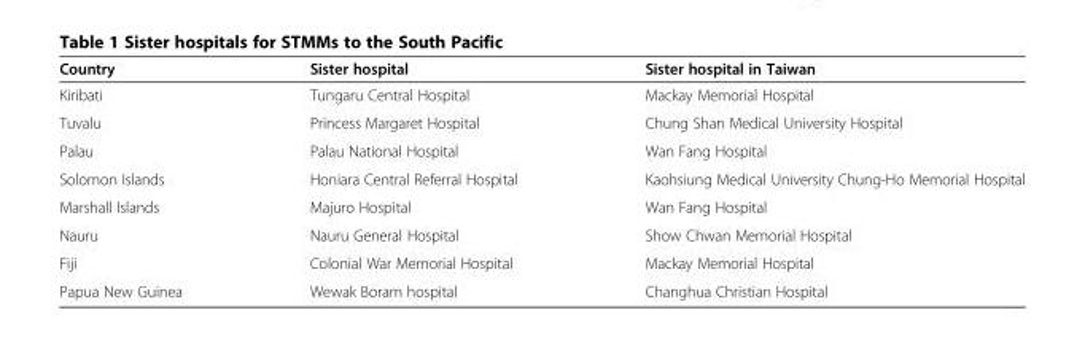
<table><thead><tr><td>Country</td><td>Sister hospital</td><td>Sister hospital in Taiwan</td></tr></thead><tbody><tr><td>Kiribati</td><td>Tungaru Central Hospital</td><td>Mackay Memorial Hospital</td></tr><tr><td>Tuvalu</td><td>Princess Margaret Hospital</td><td>Chung Shan Medical University Hospital</td></tr><tr><td>Palau</td><td>Palau National Hospital</td><td>Wan Fang Hospital</td></tr><tr><td>Solomon Islands</td><td>Honiara Central Referral Hospital</td><td>Kaohsiung Medical University Chung-Ho Memorial Hospital</td></tr><tr><td>Marshall Islands</td><td>Majuro Hospital</td><td>Wan Fang Hospital</td></tr><tr><td>Nauru</td><td>Nauru General Hospital</td><td>Show Chwan Memorial Hospital</td></tr><tr><td>Fiji</td><td>Colonial War Memorial Hospital</td><td>Mackay Memorial Hospital</td></tr><tr><td>Papua New Guinea</td><td>Wewak Boram hospital</td><td>Changhua Christian Hospital</td></tr></tbody></table>